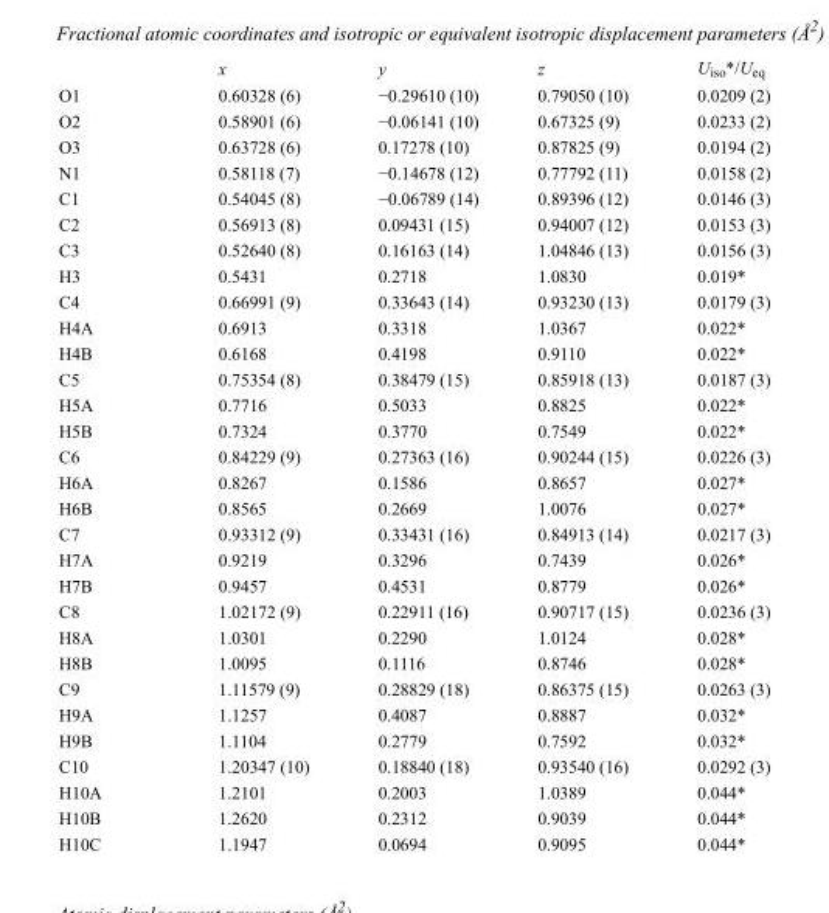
<table><thead><tr><td></td><td>x</td><td>y</td><td>z</td><td>U<sub>iso</sub>*/U<sub>eq</sub></td></tr></thead><tbody><tr><td>O1</td><td>0.60328 (6)</td><td>−0.29610 (10)</td><td>0.79050 (10)</td><td>0.0209 (2)</td></tr><tr><td>O2</td><td>0.58901 (6)</td><td>−0.06141 (10)</td><td>0.67325 (9)</td><td>0.0233 (2)</td></tr><tr><td>O3</td><td>0.63728 (6)</td><td>0.17278 (10)</td><td>0.87825 (9)</td><td>0.0194 (2)</td></tr><tr><td>N1</td><td>0.58118 (7)</td><td>−0.14678 (12)</td><td>0.77792 (11)</td><td>0.0158 (2)</td></tr><tr><td>C1</td><td>0.54045 (8)</td><td>−0.06789 (14)</td><td>0.89396 (12)</td><td>0.0146 (3)</td></tr><tr><td>C2</td><td>0.56913 (8)</td><td>0.09431 (15)</td><td>0.94007 (12)</td><td>0.0153 (3)</td></tr><tr><td>C3</td><td>0.52640 (8)</td><td>0.16163 (14)</td><td>1.04846 (13)</td><td>0.0156 (3)</td></tr><tr><td>H3</td><td>0.5431</td><td>0.2718</td><td>1.0830</td><td>0.019*</td></tr><tr><td>C4</td><td>0.66991 (9)</td><td>0.33643 (14)</td><td>0.93230 (13)</td><td>0.0179 (3)</td></tr><tr><td>H4A</td><td>0.6913</td><td>0.3318</td><td>1.0367</td><td>0.022*</td></tr><tr><td>H4B</td><td>0.6168</td><td>0.4198</td><td>0.9110</td><td>0.022*</td></tr><tr><td>C5</td><td>0.75354 (8)</td><td>0.38479 (15)</td><td>0.85918 (13)</td><td>0.0187 (3)</td></tr><tr><td>H5A</td><td>0.7716</td><td>0.5033</td><td>0.8825</td><td>0.022*</td></tr><tr><td>H5B</td><td>0.7324</td><td>0.3770</td><td>0.7549</td><td>0.022*</td></tr><tr><td>C6</td><td>0.84229 (9)</td><td>0.27363 (16)</td><td>0.90244 (15)</td><td>0.0226 (3)</td></tr><tr><td>H6A</td><td>0.8267</td><td>0.1586</td><td>0.8657</td><td>0.027*</td></tr><tr><td>H6B</td><td>0.8565</td><td>0.2669</td><td>1.0076</td><td>0.027*</td></tr><tr><td>C7</td><td>0.93312 (9)</td><td>0.33431 (16)</td><td>0.84913 (14)</td><td>0.0217 (3)</td></tr><tr><td>H7A</td><td>0.9219</td><td>0.3296</td><td>0.7439</td><td>0.026*</td></tr><tr><td>H7B</td><td>0.9457</td><td>0.4531</td><td>0.8779</td><td>0.026*</td></tr><tr><td>C8</td><td>1.02172 (9)</td><td>0.22911 (16)</td><td>0.90717 (15)</td><td>0.0236 (3)</td></tr><tr><td>H8A</td><td>1.0301</td><td>0.2290</td><td>1.0124</td><td>0.028*</td></tr><tr><td>H8B</td><td>1.0095</td><td>0.1116</td><td>0.8746</td><td>0.028*</td></tr><tr><td>C9</td><td>1.11579 (9)</td><td>0.28829 (18)</td><td>0.86375 (15)</td><td>0.0263 (3)</td></tr><tr><td>H9A</td><td>1.1257</td><td>0.4087</td><td>0.8887</td><td>0.032*</td></tr><tr><td>H9B</td><td>1.1104</td><td>0.2779</td><td>0.7592</td><td>0.032*</td></tr><tr><td>C10</td><td>1.20347 (10)</td><td>0.18840 (18)</td><td>0.93540 (16)</td><td>0.0292 (3)</td></tr><tr><td>H10A</td><td>1.2101</td><td>0.2003</td><td>1.0389</td><td>0.044*</td></tr><tr><td>H10B</td><td>1.2620</td><td>0.2312</td><td>0.9039</td><td>0.044*</td></tr><tr><td>H10C</td><td>1.1947</td><td>0.0694</td><td>0.9095</td><td>0.044*</td></tr></tbody></table>